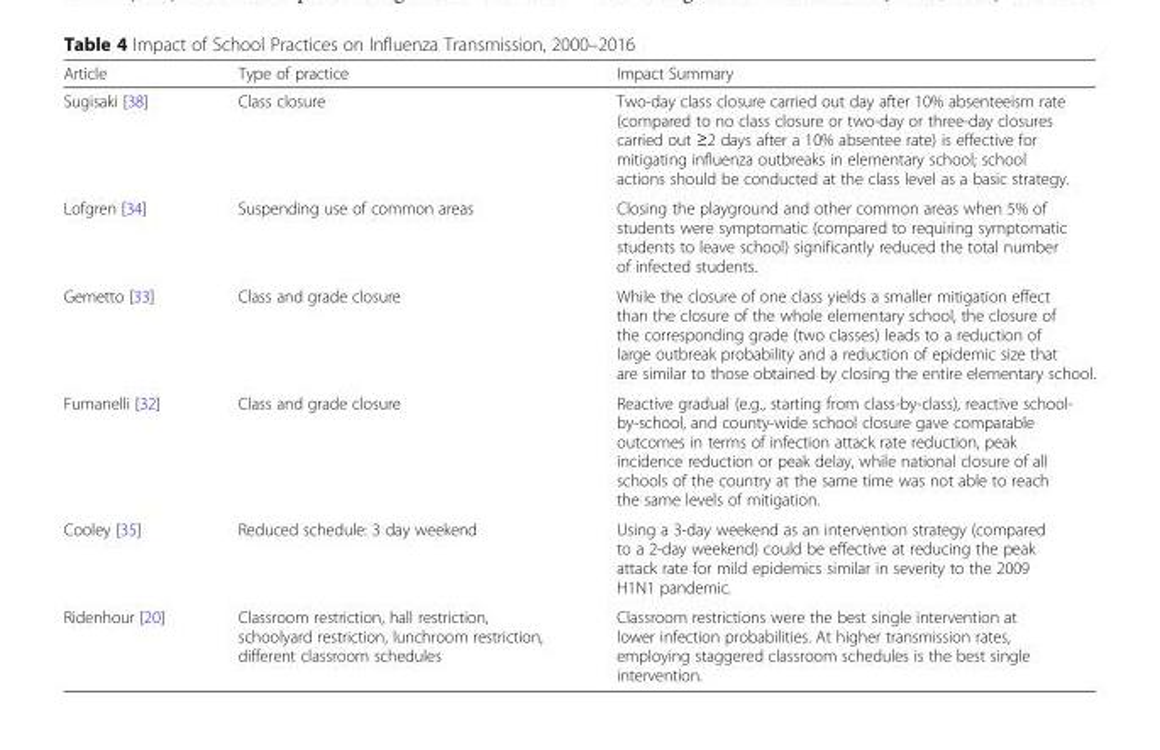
<table><thead><tr><td>Article</td><td>Type of practice</td><td>Impact Summary</td></tr></thead><tbody><tr><td>Sugisaki [38]</td><td>Class closure</td><td>Two-day class closure carried out day after 10% absenteeism rate (compared to no class closure or two-day or three-day closures carried out ≥2 days after a 10% absentee rate) is effective for mitigating influenza outbreaks in elementary school; school actions should be conducted at the class level as a basic strategy.</td></tr><tr><td>Lofgren [34]</td><td>Suspending use of common areas</td><td>Closing the playground and other common areas when 5% of students were symptomatic (compared to requiring symptomatic students to leave school) significantly reduced the total number of infected students.</td></tr><tr><td>Gemetto [33]</td><td>Class and grade closure</td><td>While the closure of one class yields a smaller mitigation effect than the closure of the whole elementary school, the closure of the corresponding grade (two classes) leads to a reduction of large outbreak probability and a reduction of epidemic size that are similar to those obtained by closing the entire elementary school.</td></tr><tr><td>Fumanelli [32]</td><td>Class and grade closure</td><td>Reactive gradual (e.g., starting from class-by-class), reactive school- by-school, and county-wide school closure gave comparable outcomes in terms of infection attack rate reduction, peak incidence reduction or peak delay, while national closure of all schools of the country at the same time was not able to reach the same levels of mitigation.</td></tr><tr><td>Cooley [35]</td><td>Reduced schedule: 3 day weekend</td><td>Using a 3-day weekend as an intervention strategy (compared to a 2-day weekend) could be effective at reducing the peak attack rate for mild epidemics similar in severity to the 2009 H1N1 pandemic.</td></tr><tr><td>Ridenhour [20]</td><td>Classroom restriction, hall restriction, schoolyard restriction, lunchroom restriction, different classroom schedules</td><td>Classroom restrictions were the best single intervention at lower infection probabilities. At higher transmission rates, employing staggered classroom schedules is the best single intervention.</td></tr></tbody></table>